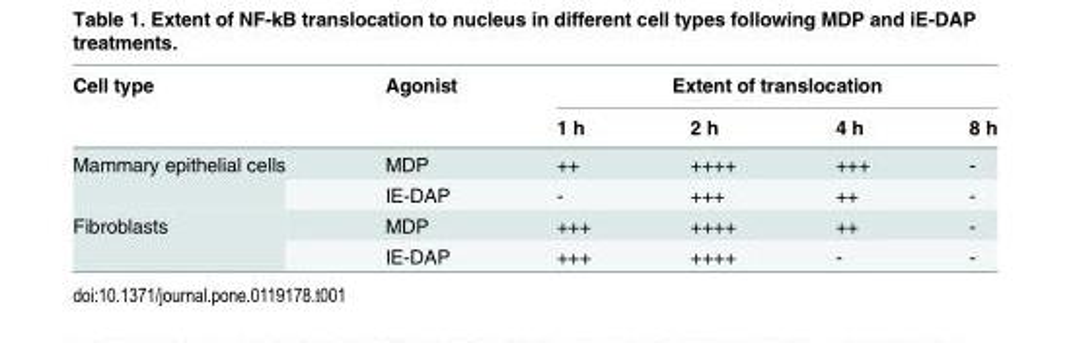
<table><thead><tr><td rowspan="2">Cell type</td><td rowspan="2">Agonist</td><td colspan="4">Extent of translocation</td></tr><tr><td>1 h</td><td>2 h</td><td>4 h</td><td>8 h</td></tr></thead><tbody><tr><td rowspan="2">Mammary epithelial cells</td><td>MDP</td><td>++</td><td>++++</td><td>+++</td><td>-</td></tr><tr><td>IE-DAP</td><td>-</td><td>+++</td><td>++</td><td>-</td></tr><tr><td rowspan="2">Fibroblasts</td><td>MDP</td><td>+++</td><td>++++</td><td>++</td><td>-</td></tr><tr><td>IE-DAP</td><td>+++</td><td>++++</td><td>-</td><td>-</td></tr></tbody></table>